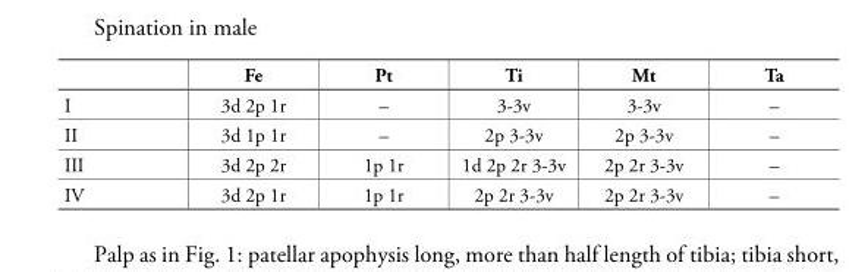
<table><thead><tr><td></td><td>Fe</td><td>Pt</td><td>Ti</td><td>Mt</td><td>Ta</td></tr></thead><tbody><tr><td>I</td><td>3d 2p 1r</td><td>–</td><td>3-3v</td><td>3-3v</td><td>–</td></tr><tr><td>II</td><td>3d 1p 1r</td><td>–</td><td>2p 3-3v</td><td>2p 3-3v</td><td>–</td></tr><tr><td>III</td><td>3d 2p 2r</td><td>1p 1r</td><td>1d 2p 2r 3-3v</td><td>2p 2r 3-3v</td><td>–</td></tr><tr><td>IV</td><td>3d 2p 1r</td><td>1p 1r</td><td>2p 2r 3-3v</td><td>2p 2r 3-3v</td><td>–</td></tr></tbody></table>